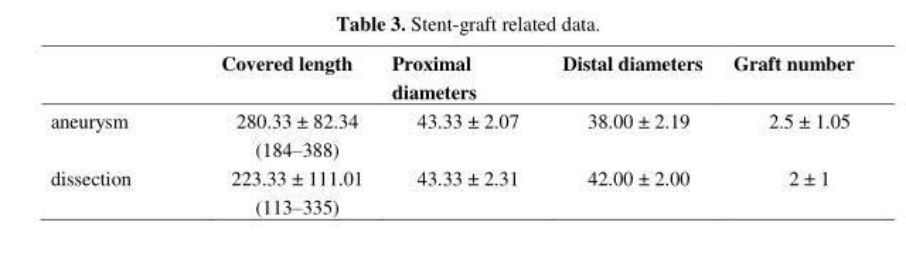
<table><thead><tr><td></td><td>Covered length</td><td>Proximal diameters</td><td>Distal diameters</td><td>Graft number</td></tr></thead><tbody><tr><td>aneurysm</td><td>280.33 ± 82.34 (184–388)</td><td>43.33 ± 2.07</td><td>38.00 ± 2.19</td><td>2.5 ± 1.05</td></tr><tr><td>dissection</td><td>223.33 ± 111.01 (113–335)</td><td>43.33 ± 2.31</td><td>42.00 ± 2.00</td><td>2 ± 1</td></tr></tbody></table>